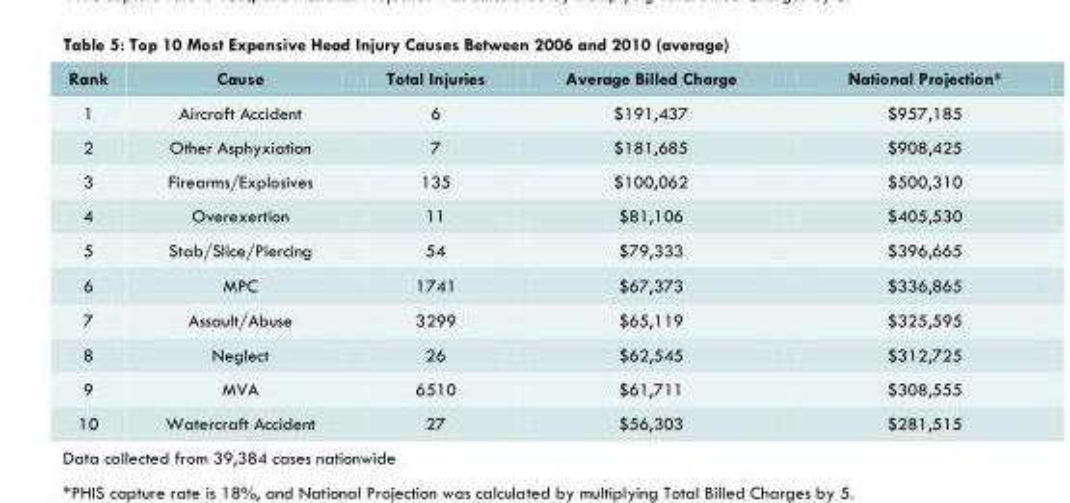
<table><thead><tr><td>Rank</td><td>Cause</td><td>Total Injuries</td><td>Average Billed Charge</td><td>National Projection*</td></tr></thead><tbody><tr><td>1</td><td>Aircraft Accident</td><td>6</td><td>$191,437</td><td>$957,185</td></tr><tr><td>2</td><td>Other Asphyxiation</td><td>7</td><td>$181,685</td><td>$908,425</td></tr><tr><td>3</td><td>Firearms/Explosives</td><td>135</td><td>$100,062</td><td>$500,310</td></tr><tr><td>4</td><td>Overexertion</td><td>11</td><td>$81,106</td><td>$405,530</td></tr><tr><td>5</td><td>Stab/Slice/Piercing</td><td>54</td><td>$79,333</td><td>$396,665</td></tr><tr><td>6</td><td>MPC</td><td>1741</td><td>$67,373</td><td>$336,865</td></tr><tr><td>7</td><td>Assault/Abuse</td><td>3299</td><td>$65,119</td><td>$325,595</td></tr><tr><td>8</td><td>Neglect</td><td>26</td><td>$62,545</td><td>$312,725</td></tr><tr><td>9</td><td>MVA</td><td>6510</td><td>$61,711</td><td>$308,555</td></tr><tr><td>10</td><td>Watercraft Accident</td><td>27</td><td>$56,303</td><td>$281,515</td></tr></tbody></table>